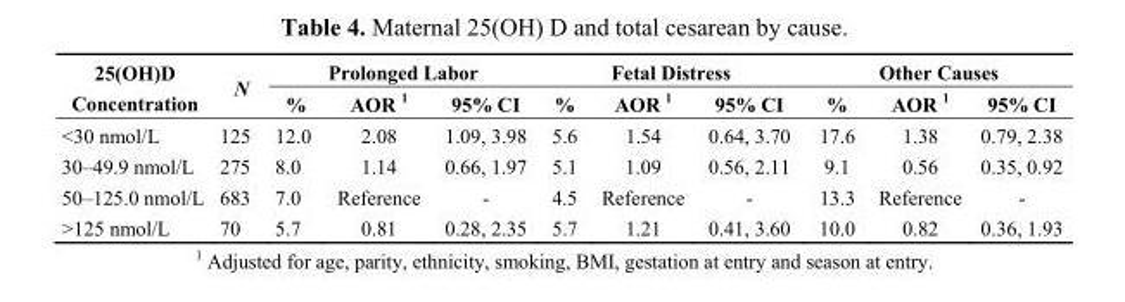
<table><thead><tr><td rowspan="2">25(OH)D Concentration</td><td rowspan="2">N</td><td colspan="3">Prolonged Labor</td><td colspan="3">Fetal Distress</td><td colspan="3">Other Causes</td></tr><tr><td>%</td><td>AOR <sup>1</sup></td><td>95% CI</td><td>%</td><td>AOR <sup>1</sup></td><td>95% CI</td><td>%</td><td>AOR <sup>1</sup></td><td>95% CI</td></tr></thead><tbody><tr><td>&lt;30 nmol/L</td><td>125</td><td>12.0</td><td>2.08</td><td>1.09, 3.98</td><td>5.6</td><td>1.54</td><td>0.64, 3.70</td><td>17.6</td><td>1.38</td><td>0.79, 2.38</td></tr><tr><td>30–49.9 nmol/L</td><td>275</td><td>8.0</td><td>1.14</td><td>0.66, 1.97</td><td>5.1</td><td>1.09</td><td>0.56, 2.11</td><td>9.1</td><td>0.56</td><td>0.35, 0.92</td></tr><tr><td>50–125.0 nmol/L</td><td>683</td><td>7.0</td><td>Reference</td><td>-</td><td>4.5</td><td>Reference</td><td>-</td><td>13.3</td><td>Reference</td><td>-</td></tr><tr><td>&gt;125 nmol/L</td><td>70</td><td>5.7</td><td>0.81</td><td>0.28, 2.35</td><td>5.7</td><td>1.21</td><td>0.41, 3.60</td><td>10.0</td><td>0.82</td><td>0.36, 1.93</td></tr></tbody></table>